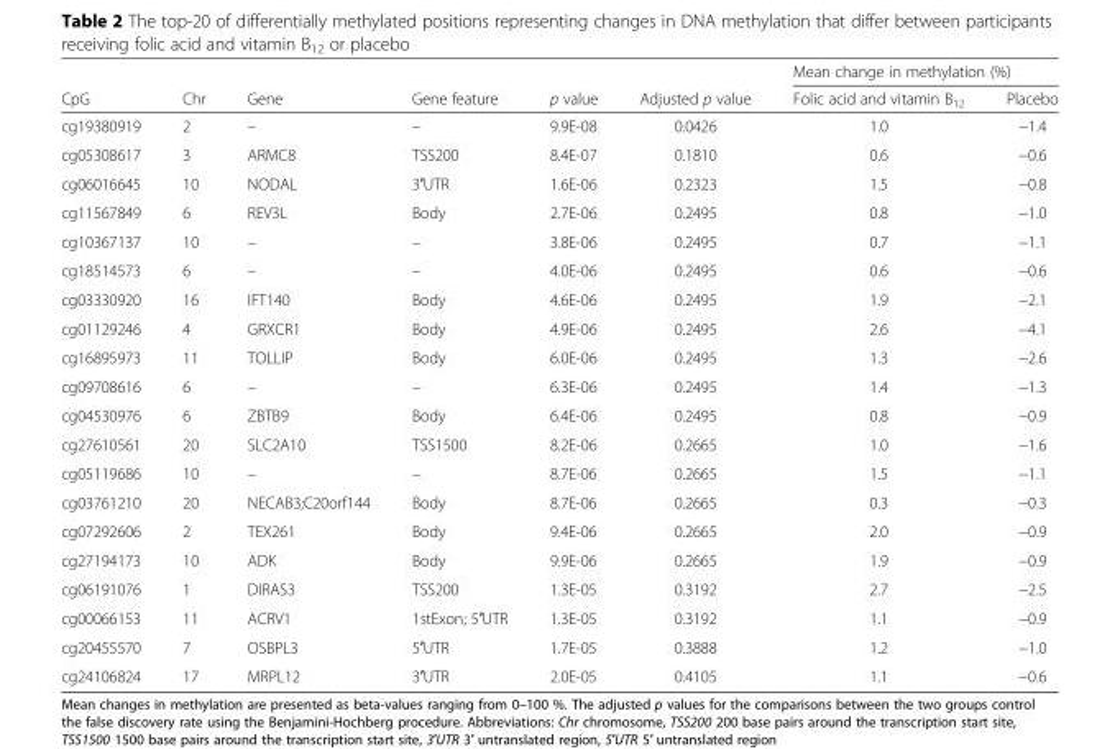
<table><thead><tr><td rowspan="2">CpG</td><td rowspan="2">Chr</td><td rowspan="2">Gene</td><td rowspan="2">Gene feature</td><td rowspan="2">p value</td><td rowspan="2">Adjusted p value</td><td colspan="2">Mean change in methylation (%)</td></tr><tr><td>Folic acid and vitamin B<sub>12</sub></td><td>Placebo</td></tr></thead><tbody><tr><td>cg19380919</td><td>2</td><td>–</td><td>–</td><td>9.9E-08</td><td>0.0426</td><td>1.0</td><td>−1.4</td></tr><tr><td>cg05308617</td><td>3</td><td>ARMC8</td><td>TSS200</td><td>8.4E-07</td><td>0.1810</td><td>0.6</td><td>−0.6</td></tr><tr><td>cg06016645</td><td>10</td><td>NODAL</td><td>3′UTR</td><td>1.6E-06</td><td>0.2323</td><td>1.5</td><td>−0.8</td></tr><tr><td>cg11567849</td><td>6</td><td>REV3L</td><td>Body</td><td>2.7E-06</td><td>0.2495</td><td>0.8</td><td>−1.0</td></tr><tr><td>cg10367137</td><td>10</td><td>–</td><td>–</td><td>3.8E-06</td><td>0.2495</td><td>0.7</td><td>−1.1</td></tr><tr><td>cg18514573</td><td>6</td><td>–</td><td>–</td><td>4.0E-06</td><td>0.2495</td><td>0.6</td><td>−0.6</td></tr><tr><td>cg03330920</td><td>16</td><td>IFT140</td><td>Body</td><td>4.6E-06</td><td>0.2495</td><td>1.9</td><td>−2.1</td></tr><tr><td>cg01129246</td><td>4</td><td>GRXCR1</td><td>Body</td><td>4.9E-06</td><td>0.2495</td><td>2.6</td><td>−4.1</td></tr><tr><td>cg16895973</td><td>11</td><td>TOLLIP</td><td>Body</td><td>6.0E-06</td><td>0.2495</td><td>1.3</td><td>−2.6</td></tr><tr><td>cg09708616</td><td>6</td><td>–</td><td>–</td><td>6.3E-06</td><td>0.2495</td><td>1.4</td><td>−1.3</td></tr><tr><td>cg04530976</td><td>6</td><td>ZBTB9</td><td>Body</td><td>6.4E-06</td><td>0.2495</td><td>0.8</td><td>−0.9</td></tr><tr><td>cg27610561</td><td>20</td><td>SLC2A10</td><td>TSS1500</td><td>8.2E-06</td><td>0.2665</td><td>1.0</td><td>−1.6</td></tr><tr><td>cg05119686</td><td>10</td><td>–</td><td>–</td><td>8.7E-06</td><td>0.2665</td><td>1.5</td><td>−1.1</td></tr><tr><td>cg03761210</td><td>20</td><td>NECAB3;C20orf144</td><td>Body</td><td>8.7E-06</td><td>0.2665</td><td>0.3</td><td>−0.3</td></tr><tr><td>cg07292606</td><td>2</td><td>TEX261</td><td>Body</td><td>9.4E-06</td><td>0.2665</td><td>2.0</td><td>−0.9</td></tr><tr><td>cg27194173</td><td>10</td><td>ADK</td><td>Body</td><td>9.9E-06</td><td>0.2665</td><td>1.9</td><td>−0.9</td></tr><tr><td>cg06191076</td><td>1</td><td>DIRAS3</td><td>TSS200</td><td>1.3E-05</td><td>0.3192</td><td>2.7</td><td>−2.5</td></tr><tr><td>cg00066153</td><td>11</td><td>ACRV1</td><td>1stExon; 5′UTR</td><td>1.3E-05</td><td>0.3192</td><td>1.1</td><td>−0.9</td></tr><tr><td>cg20455570</td><td>7</td><td>OSBPL3</td><td>5′UTR</td><td>1.7E-05</td><td>0.3888</td><td>1.2</td><td>−1.0</td></tr><tr><td>cg24106824</td><td>17</td><td>MRPL12</td><td>3′UTR</td><td>2.0E-05</td><td>0.4105</td><td>1.1</td><td>−0.6</td></tr></tbody></table>